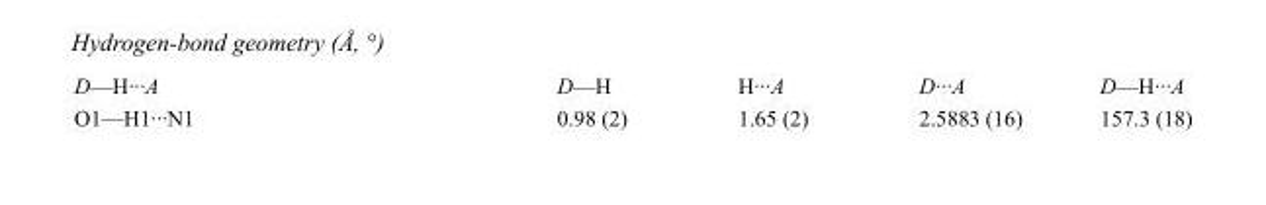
<table><tbody><tr><td>D—H···A</td><td>D—H</td><td>H···A</td><td>D···A</td><td>D—H···A</td></tr><tr><td>O1—H1···N1</td><td>0.98 (2)</td><td>1.65 (2)</td><td>2.5883 (16)</td><td>157.3 (18)</td></tr></tbody></table>